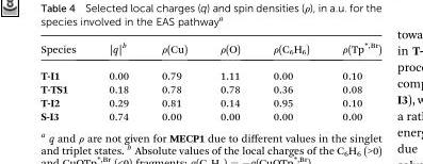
<table><thead><tr><td>Species</td><td>|q|<sup>b</sup></td><td>ρ(Cu)</td><td>ρ(O)</td><td>ρ(C<sub>6</sub>H<sub>6</sub>)</td><td>ρ(Tp<sup>*,Br</sup>)</td></tr></thead><tbody><tr><td>T-I1</td><td>0.00</td><td>0.79</td><td>1.11</td><td>0.00</td><td>0.10</td></tr><tr><td>T-TS1</td><td>0.18</td><td>0.78</td><td>0.78</td><td>0.36</td><td>0.08</td></tr><tr><td>T-I2</td><td>0.29</td><td>0.81</td><td>0.14</td><td>0.95</td><td>0.10</td></tr><tr><td>S-I3</td><td>0.74</td><td>0.00</td><td>0.00</td><td>0.00</td><td>0.00</td></tr></tbody></table>